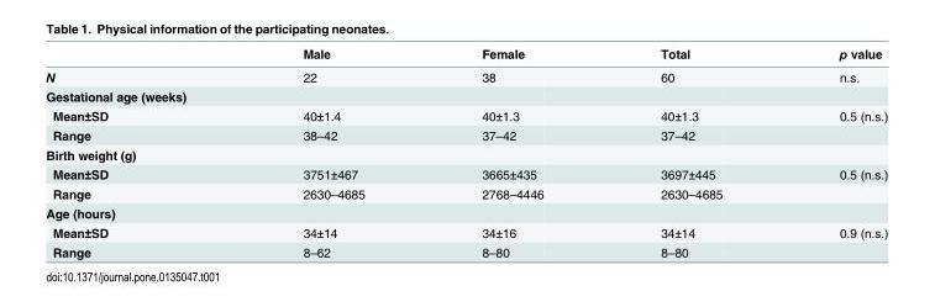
<table><thead><tr><td></td><td>Male</td><td>Female</td><td>Total</td><td>p value</td></tr></thead><tbody><tr><td>N</td><td>22</td><td>38</td><td>60</td><td>n.s.</td></tr><tr><td colspan="5">Gestational age (weeks)</td></tr><tr><td>Mean±SD</td><td>40±1.4</td><td>40±1.3</td><td>40±1.3</td><td>0.5 (n.s.)</td></tr><tr><td>Range</td><td>38–42</td><td>37–42</td><td>37–42</td><td></td></tr><tr><td colspan="5">Birth weight (g)</td></tr><tr><td>Mean±SD</td><td>3751±467</td><td>3665±435</td><td>3697±445</td><td>0.5 (n.s.)</td></tr><tr><td>Range</td><td>2630–4685</td><td>2768–4446</td><td>2630–4685</td><td></td></tr><tr><td colspan="5">Age (hours)</td></tr><tr><td>Mean±SD</td><td>34±14</td><td>34±16</td><td>34±14</td><td>0.9 (n.s.)</td></tr><tr><td>Range</td><td>8–62</td><td>8–80</td><td>8–80</td><td></td></tr></tbody></table>